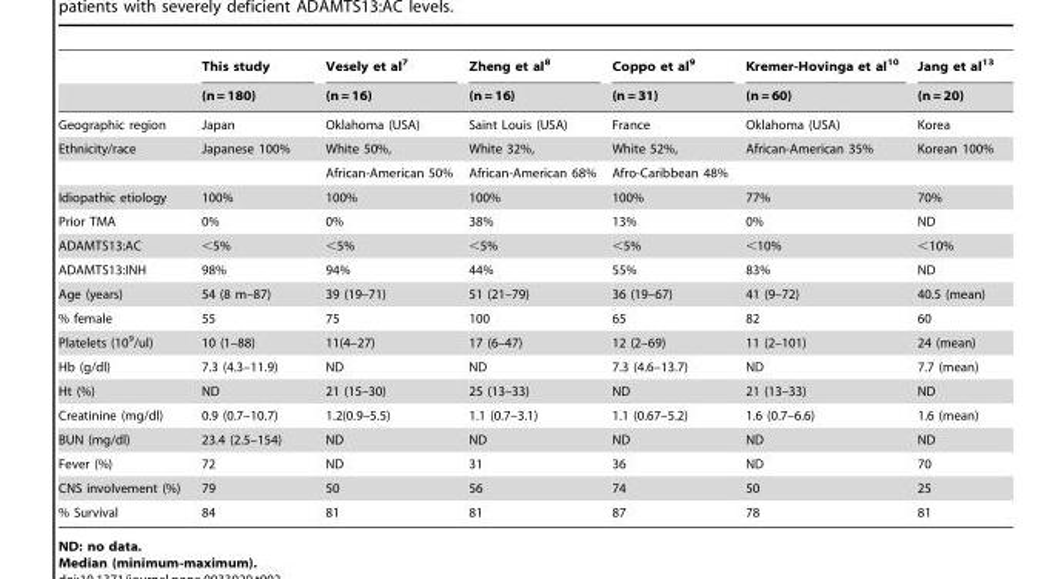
<table><thead><tr><td rowspan="2"></td><td rowspan="2">This study (n = 180)</td><td rowspan="2">Vesely et al<sup>7</sup> (n = 16)</td><td rowspan="2">Zheng et al<sup>8</sup> (n = 16)</td><td rowspan="2">Coppo et al<sup>9</sup> (n = 31)</td><td rowspan="2">Kremer-Hovinga et al<sup>10</sup> (n = 60)</td><td rowspan="2">Jang et al<sup>13</sup> (n = 20)</td></tr><tr></tr></thead><tbody><tr><td>Geographic region</td><td>Japan</td><td>Oklahoma (USA)</td><td>Saint Louis (USA)</td><td>France</td><td>Oklahoma (USA)</td><td>Korea</td></tr><tr><td rowspan="2">Ethnicity/race</td><td>Japanese 100%</td><td>White 50%,</td><td>White 32%,</td><td>White 52%,</td><td>African-American 35%</td><td>Korean 100%</td></tr><tr><td></td><td>African-American 50%</td><td>African-American 68%</td><td>Afro-Caribbean 48%</td><td></td><td></td></tr><tr><td>Idiopathic etiology</td><td>100%</td><td>100%</td><td>100%</td><td>100%</td><td>77%</td><td>70%</td></tr><tr><td>Prior TMA</td><td>0%</td><td>0%</td><td>38%</td><td>13%</td><td>0%</td><td>ND</td></tr><tr><td>ADAMTS13:AC</td><td>&lt;5%</td><td>&lt;5%</td><td>&lt;5%</td><td>&lt;5%</td><td>&lt;10%</td><td>&lt;10%</td></tr><tr><td>ADAMTS13:INH</td><td>98%</td><td>94%</td><td>44%</td><td>55%</td><td>83%</td><td>ND</td></tr><tr><td>Age (years)</td><td>54 (8 m–87)</td><td>39 (19–71)</td><td>51 (21–79)</td><td>36 (19–67)</td><td>41 (9–72)</td><td>40.5 (mean)</td></tr><tr><td>% female</td><td>55</td><td>75</td><td>100</td><td>65</td><td>82</td><td>60</td></tr><tr><td>Platelets (10<sup>9</sup>/ul)</td><td>10 (1–88)</td><td>11(4–27)</td><td>17 (6–47)</td><td>12 (2–69)</td><td>11 (2–101)</td><td>24 (mean)</td></tr><tr><td>Hb (g/dl)</td><td>7.3 (4.3–11.9)</td><td>ND</td><td>ND</td><td>7.3 (4.6–13.7)</td><td>ND</td><td>7.7 (mean)</td></tr><tr><td>Ht (%)</td><td>ND</td><td>21 (15–30)</td><td>25 (13–33)</td><td>ND</td><td>21 (13–33)</td><td>ND</td></tr><tr><td>Creatinine (mg/dl)</td><td>0.9 (0.7–10.7)</td><td>1.2(0.9–5.5)</td><td>1.1 (0.7–3.1)</td><td>1.1 (0.67–5.2)</td><td>1.6 (0.7–6.6)</td><td>1.6 (mean)</td></tr><tr><td>BUN (mg/dl)</td><td>23.4 (2.5–154)</td><td>ND</td><td>ND</td><td>ND</td><td>ND</td><td>ND</td></tr><tr><td>Fever (%)</td><td>72</td><td>ND</td><td>31</td><td>36</td><td>ND</td><td>70</td></tr><tr><td>CNS involvement (%)</td><td>79</td><td>50</td><td>56</td><td>74</td><td>50</td><td>25</td></tr><tr><td>% Survival</td><td>84</td><td>81</td><td>81</td><td>87</td><td>78</td><td>81</td></tr></tbody></table>